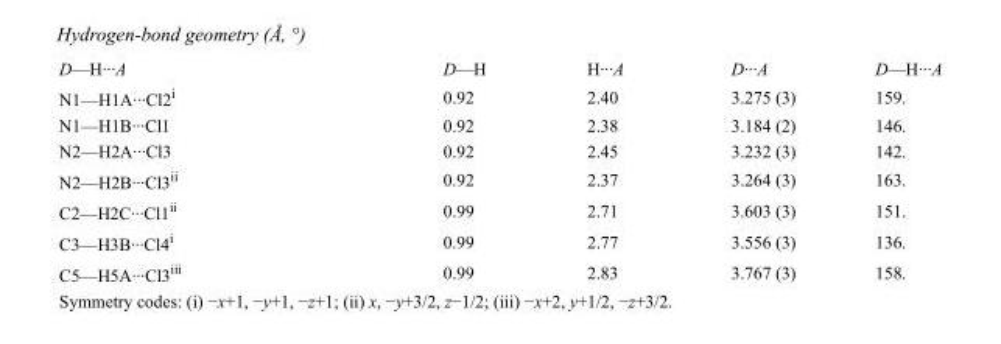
<table><tbody><tr><td>D—H···A</td><td>D—H</td><td>H···A</td><td>D···A</td><td>D—H···A</td></tr><tr><td>N1—H1A···Cl2<sup>i</sup></td><td>0.92</td><td>2.40</td><td>3.275 (3)</td><td>159.</td></tr><tr><td>N1—H1B···Cl1</td><td>0.92</td><td>2.38</td><td>3.184 (2)</td><td>146.</td></tr><tr><td>N2—H2A···Cl3</td><td>0.92</td><td>2.45</td><td>3.232 (3)</td><td>142.</td></tr><tr><td>N2—H2B···Cl3<sup>ii</sup></td><td>0.92</td><td>2.37</td><td>3.264 (3)</td><td>163.</td></tr><tr><td>C2—H2C···Cl1<sup>ii</sup></td><td>0.99</td><td>2.71</td><td>3.603 (3)</td><td>151.</td></tr><tr><td>C3—H3B···Cl4<sup>i</sup></td><td>0.99</td><td>2.77</td><td>3.556 (3)</td><td>136.</td></tr><tr><td>C5—H5A···Cl3<sup>iii</sup></td><td>0.99</td><td>2.83</td><td>3.767 (3)</td><td>158.</td></tr></tbody></table>